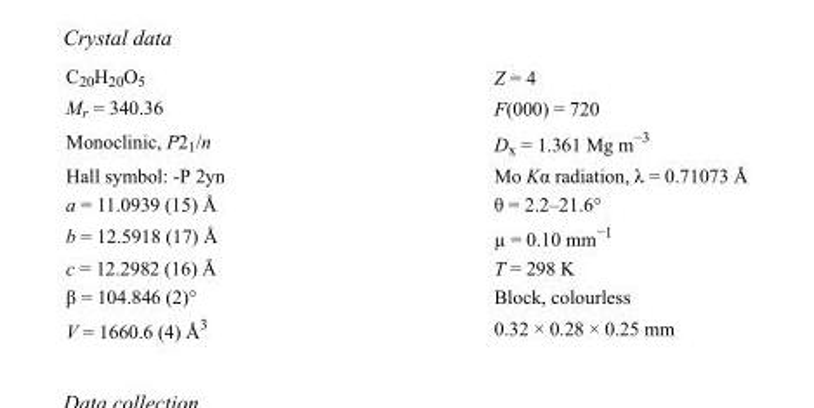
<table><tbody><tr><td>C<sub>20</sub>H<sub>20</sub>O<sub>5</sub></td><td>Z = 4</td></tr><tr><td>M<sub>r</sub> = 340.36</td><td>F(000) = 720</td></tr><tr><td>Monoclinic, P2<sub>1</sub>/n</td><td>D<sub>x</sub> = 1.361 Mg m<sup>−3</sup></td></tr><tr><td>Hall symbol: -P 2yn</td><td>Mo Kα radiation, λ = 0.71073 Å</td></tr><tr><td>a = 11.0939 (15) Å</td><td>θ = 2.2–21.6°</td></tr><tr><td>b = 12.5918 (17) Å</td><td>µ = 0.10 mm<sup>−1</sup></td></tr><tr><td>c = 12.2982 (16) Å</td><td>T = 298 K</td></tr><tr><td>β = 104.846 (2)°</td><td>Block, colourless</td></tr><tr><td>V = 1660.6 (4) Å<sup>3</sup></td><td>0.32 × 0.28 × 0.25 mm</td></tr></tbody></table>